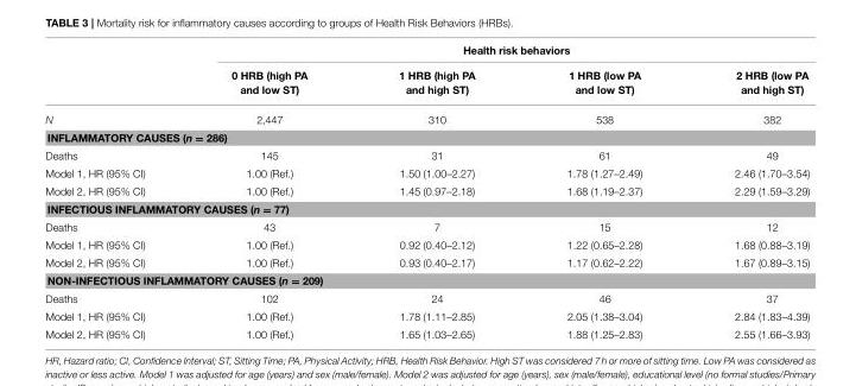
<table><thead><tr><td rowspan="2"></td><td colspan="4">Health risk behaviors</td></tr><tr><td>0 HRB (high PA and low ST)</td><td>1 HRB (high PA and high ST)</td><td>1 HRB (low PA and low ST)</td><td>2 HRB (low PA and high ST)</td></tr></thead><tbody><tr><td>N</td><td>2,447</td><td>310</td><td>538</td><td>382</td></tr><tr><td colspan="5">INFLAMMATORY CAUSES (n = 286)</td></tr><tr><td>Deaths</td><td>145</td><td>31</td><td>61</td><td>49</td></tr><tr><td>Model 1, HR (95% CI)</td><td>1.00 (Ref.)</td><td>1.50 (1.00–2.27)</td><td>1.78 (1.27–2.49)</td><td>2.46 (1.70–3.54)</td></tr><tr><td>Model 2, HR (95% CI)</td><td>1.00 (Ref.)</td><td>1.45 (0.97–2.18)</td><td>1.68 (1.19–2.37)</td><td>2.29 (1.59–3.29)</td></tr><tr><td colspan="5">INFECTIOUS INFLAMMATORY CAUSES (n = 77)</td></tr><tr><td>Deaths</td><td>43</td><td>7</td><td>15</td><td>12</td></tr><tr><td>Model 1, HR (95% CI)</td><td>1.00 (Ref.)</td><td>0.92 (0.40–2.12)</td><td>1.22 (0.65–2.28)</td><td>1.68 (0.88–3.19)</td></tr><tr><td>Model 2, HR (95% CI)</td><td>1.00 (Ref.)</td><td>0.93 (0.40–2.17)</td><td>1.17 (0.62–2.22)</td><td>1.67 (0.89–3.15)</td></tr><tr><td colspan="5">NON-INFECTIOUS INFLAMMATORY CAUSES (n = 209)</td></tr><tr><td>Deaths</td><td>102</td><td>24</td><td>46</td><td>37</td></tr><tr><td>Model 1, HR (95% CI)</td><td>1.00 (Ref.)</td><td>1.78 (1.11–2.85)</td><td>2.05 (1.38–3.04)</td><td>2.84 (1.83–4.39)</td></tr><tr><td>Model 2, HR (95% CI)</td><td>1.00 (Ref.)</td><td>1.65 (1.03–2.65)</td><td>1.88 (1.25–2.83)</td><td>2.55 (1.66–3.93)</td></tr></tbody></table>